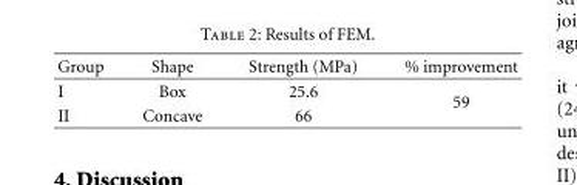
<table><thead><tr><td>Group</td><td>Shape</td><td>Strength (MPa)</td><td>% improvement</td></tr></thead><tbody><tr><td>I</td><td>Box</td><td>25.6</td><td rowspan="2">59</td></tr><tr><td>II</td><td>Concave</td><td>66</td></tr></tbody></table>